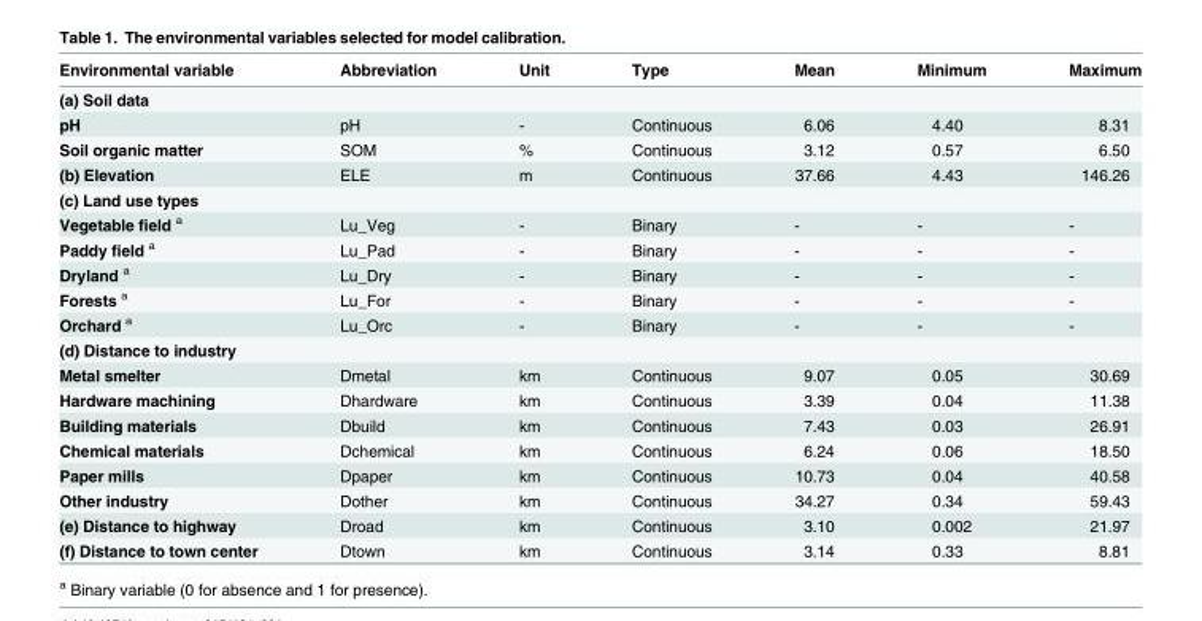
<table><thead><tr><td>Environmental variable</td><td>Abbreviation</td><td>Unit</td><td>Type</td><td>Mean</td><td>Minimum</td><td>Maximum</td></tr></thead><tbody><tr><td colspan="7">(a) Soil data</td></tr><tr><td>pH</td><td>pH</td><td>-</td><td>Continuous</td><td>6.06</td><td>4.40</td><td>8.31</td></tr><tr><td>Soil organic matter</td><td>SOM</td><td>%</td><td>Continuous</td><td>3.12</td><td>0.57</td><td>6.50</td></tr><tr><td>(b) Elevation</td><td>ELE</td><td>m</td><td>Continuous</td><td>37.66</td><td>4.43</td><td>146.26</td></tr><tr><td colspan="7">(c) Land use types</td></tr><tr><td>Vegetable field <sup>a</sup></td><td>Lu_Veg</td><td>-</td><td>Binary</td><td>-</td><td>-</td><td>-</td></tr><tr><td>Paddy field <sup>a</sup></td><td>Lu_Pad</td><td>-</td><td>Binary</td><td>-</td><td>-</td><td>-</td></tr><tr><td>Dryland <sup>a</sup></td><td>Lu_Dry</td><td>-</td><td>Binary</td><td>-</td><td>-</td><td>-</td></tr><tr><td>Forests <sup>a</sup></td><td>Lu_For</td><td>-</td><td>Binary</td><td>-</td><td>-</td><td>-</td></tr><tr><td>Orchard <sup>a</sup></td><td>Lu_Orc</td><td>-</td><td>Binary</td><td>-</td><td>-</td><td>-</td></tr><tr><td colspan="7">(d) Distance to industry</td></tr><tr><td>Metal smelter</td><td>Dmetal</td><td>km</td><td>Continuous</td><td>9.07</td><td>0.05</td><td>30.69</td></tr><tr><td>Hardware machining</td><td>Dhardware</td><td>km</td><td>Continuous</td><td>3.39</td><td>0.04</td><td>11.38</td></tr><tr><td>Building materials</td><td>Dbuild</td><td>km</td><td>Continuous</td><td>7.43</td><td>0.03</td><td>26.91</td></tr><tr><td>Chemical materials</td><td>Dchemical</td><td>km</td><td>Continuous</td><td>6.24</td><td>0.06</td><td>18.50</td></tr><tr><td>Paper mills</td><td>Dpaper</td><td>km</td><td>Continuous</td><td>10.73</td><td>0.04</td><td>40.58</td></tr><tr><td>Other industry</td><td>Dother</td><td>km</td><td>Continuous</td><td>34.27</td><td>0.34</td><td>59.43</td></tr><tr><td>(e) Distance to highway</td><td>Droad</td><td>km</td><td>Continuous</td><td>3.10</td><td>0.002</td><td>21.97</td></tr><tr><td>(f) Distance to town center</td><td>Dtown</td><td>km</td><td>Continuous</td><td>3.14</td><td>0.33</td><td>8.81</td></tr></tbody></table>